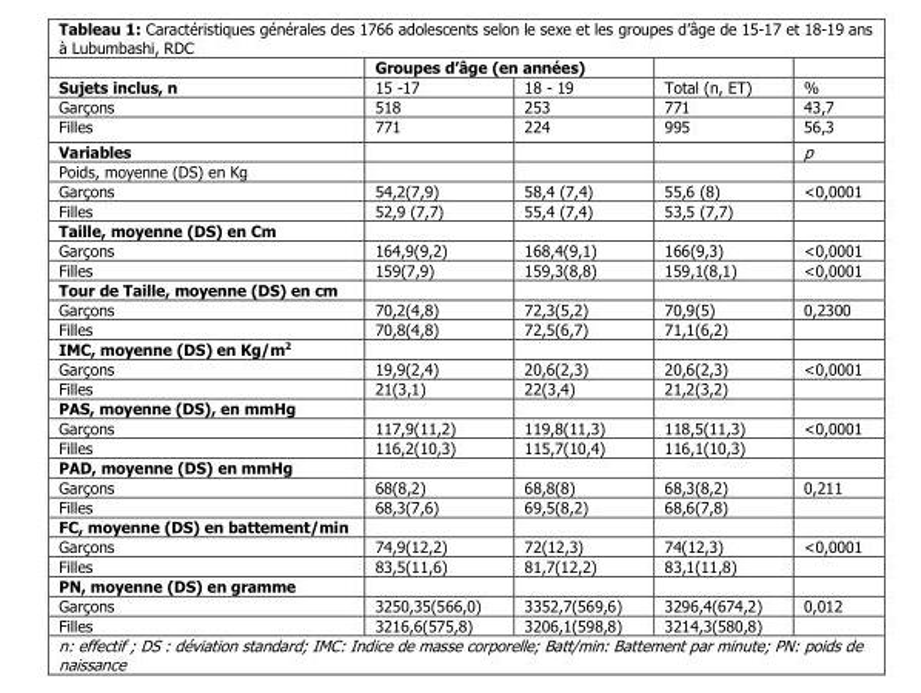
<table><thead><tr><td rowspan="2">Sujets inclus, n</td><td colspan="2">Groupes d’âge (en années)</td><td rowspan="2">Total (n, ET)</td><td rowspan="2">%</td></tr><tr><td>15 -17</td><td>18 - 19</td></tr></thead><tbody><tr><td>Garçons</td><td>518</td><td>253</td><td>771</td><td>43,7</td></tr><tr><td>Filles</td><td>771</td><td>224</td><td>995</td><td>56,3</td></tr><tr><td>Variables</td><td></td><td></td><td></td><td>p</td></tr><tr><td colspan="5">Poids, moyenne (DS) en Kg</td></tr><tr><td>Garçons</td><td>54,2(7,9)</td><td>58,4 (7,4)</td><td>55,6 (8)</td><td>&lt;0,0001</td></tr><tr><td>Filles</td><td>52,9 (7,7)</td><td>55,4 (7,4)</td><td>53,5 (7,7)</td><td></td></tr><tr><td colspan="5">Taille, moyenne (DS) en Cm</td></tr><tr><td>Garçons</td><td>164,9(9,2)</td><td>168,4(9,1)</td><td>166(9,3)</td><td>&lt;0,0001</td></tr><tr><td>Filles</td><td>159(7,9)</td><td>159,3(8,8)</td><td>159,1(8,1)</td><td>&lt;0,0001</td></tr><tr><td colspan="5">Tour de Taille, moyenne (DS) en cm</td></tr><tr><td>Garçons</td><td>70,2(4,8)</td><td>72,3(5,2)</td><td>70,9(5)</td><td>0,2300</td></tr><tr><td>Filles</td><td>70,8(4,8)</td><td>72,5(6,7)</td><td>71,1(6,2)</td><td></td></tr><tr><td colspan="5">IMC, moyenne (DS) en Kg/m<sup>2</sup></td></tr><tr><td>Garçons</td><td>19,9(2,4)</td><td>20,6(2,3)</td><td>20,6(2,3)</td><td>&lt;0,0001</td></tr><tr><td>Filles</td><td>21(3,1)</td><td>22(3,4)</td><td>21,2(3,2)</td><td></td></tr><tr><td colspan="5">PAS, moyenne (DS), en mmHg</td></tr><tr><td>Garçons</td><td>117,9(11,2)</td><td>119,8(11,3)</td><td>118,5(11,3)</td><td>&lt;0,0001</td></tr><tr><td>Filles</td><td>116,2(10,3)</td><td>115,7(10,4)</td><td>116,1(10,3)</td><td></td></tr><tr><td colspan="5">PAD, moyenne (DS) en mmHg</td></tr><tr><td>Garçons</td><td>68(8,2)</td><td>68,8(8)</td><td>68,3(8,2)</td><td>0,211</td></tr><tr><td>Filles</td><td>68,3(7,6)</td><td>69,5(8,2)</td><td>68,6(7,8)</td><td></td></tr><tr><td colspan="5">FC, moyenne (DS) en battement/min</td></tr><tr><td>Garçons</td><td>74,9(12,2)</td><td>72(12,3)</td><td>74(12,3)</td><td>&lt;0,0001</td></tr><tr><td>Filles</td><td>83,5(11,6)</td><td>81,7(12,2)</td><td>83,1(11,8)</td><td></td></tr><tr><td colspan="5">PN, moyenne (DS) en gramme</td></tr><tr><td>Garçons</td><td>3250,35(566,0)</td><td>3352,7(569,6)</td><td>3296,4(674,2)</td><td>0,012</td></tr><tr><td>Filles</td><td>3216,6(575,8)</td><td>3206,1(598,8)</td><td>3214,3(580,8)</td><td></td></tr></tbody></table>